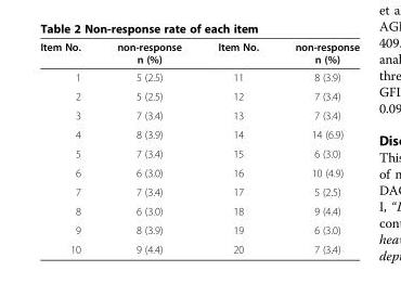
<table><thead><tr><td>Item No.</td><td>non-response n (%)</td><td>Item No.</td><td>non-response n (%)</td></tr></thead><tbody><tr><td>1</td><td>5 (2.5)</td><td>11</td><td>8 (3.9)</td></tr><tr><td>2</td><td>5 (2.5)</td><td>12</td><td>7 (3.4)</td></tr><tr><td>3</td><td>7 (3.4)</td><td>13</td><td>7 (3.4)</td></tr><tr><td>4</td><td>8 (3.9)</td><td>14</td><td>14 (6.9)</td></tr><tr><td>5</td><td>7 (3.4)</td><td>15</td><td>6 (3.0)</td></tr><tr><td>6</td><td>6 (3.0)</td><td>16</td><td>10 (4.9)</td></tr><tr><td>7</td><td>7 (3.4)</td><td>17</td><td>5 (2.5)</td></tr><tr><td>8</td><td>6 (3.0)</td><td>18</td><td>9 (4.4)</td></tr><tr><td>9</td><td>8 (3.9)</td><td>19</td><td>6 (3.0)</td></tr><tr><td>10</td><td>9 (4.4)</td><td>20</td><td>7 (3.4)</td></tr></tbody></table>